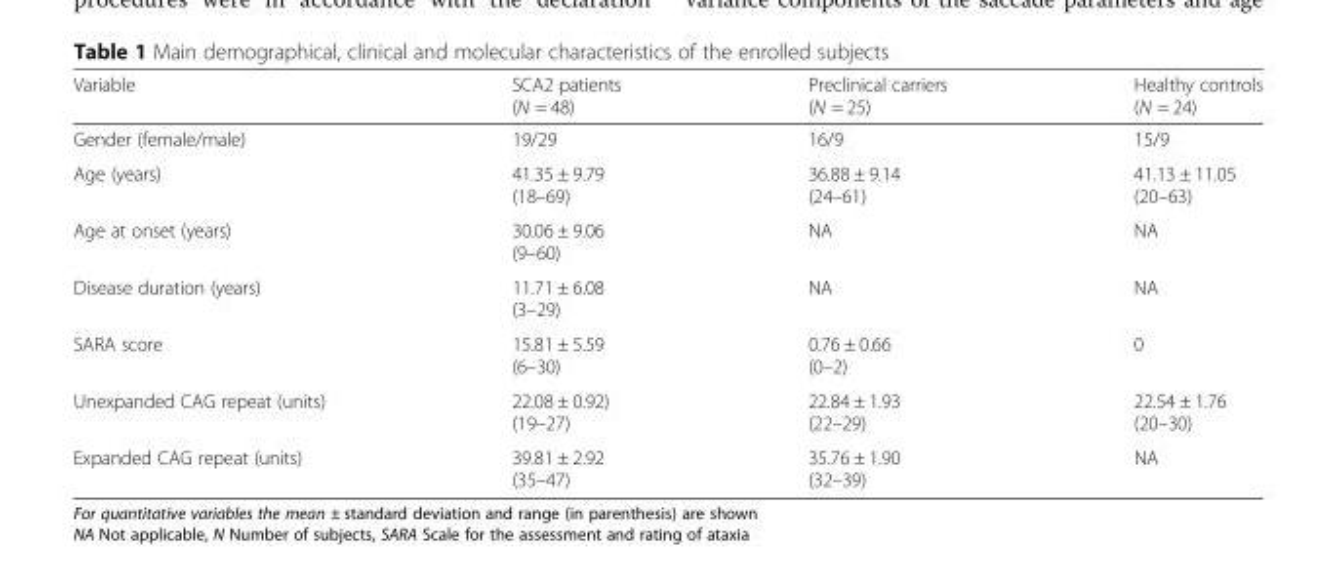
<table><thead><tr><td>Variable</td><td>SCA2 patients (N = 48)</td><td>Preclinical carriers (N = 25)</td><td>Healthy controls (N = 24)</td></tr></thead><tbody><tr><td>Gender (female/male)</td><td>19/29</td><td>16/9</td><td>15/9</td></tr><tr><td>Age (years)</td><td>41.35 ± 9.79 (18–69)</td><td>36.88 ± 9.14 (24–61)</td><td>41.13 ± 11.05 (20–63)</td></tr><tr><td>Age at onset (years)</td><td>30.06 ± 9.06 (9–60)</td><td>NA</td><td>NA</td></tr><tr><td>Disease duration (years)</td><td>11.71 ± 6.08 (3–29)</td><td>NA</td><td>NA</td></tr><tr><td>SARA score</td><td>15.81 ± 5.59 (6–30)</td><td>0.76 ± 0.66 (0–2)</td><td>0</td></tr><tr><td>Unexpanded CAG repeat (units)</td><td>22.08 ± 0.92) (19–27)</td><td>22.84 ± 1.93 (22–29)</td><td>22.54 ± 1.76 (20–30)</td></tr><tr><td>Expanded CAG repeat (units)</td><td>39.81 ± 2.92 (35–47)</td><td>35.76 ± 1.90 (32–39)</td><td>NA</td></tr></tbody></table>